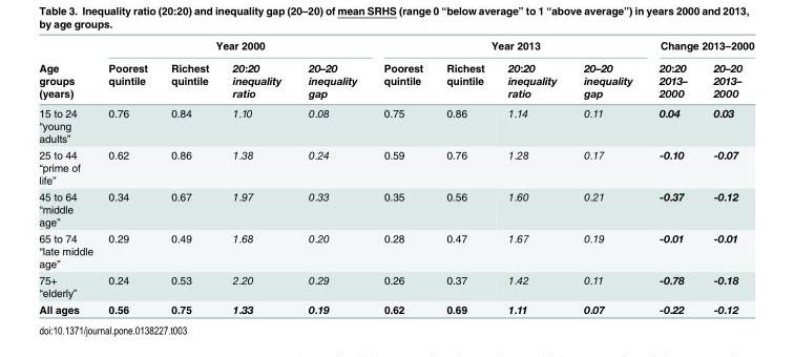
<table><thead><tr><td rowspan="2">Age groups (years)</td><td colspan="4">Year 2000</td><td colspan="4">Year 2013</td><td colspan="2">Change 2013–2000</td></tr><tr><td>Poorest quintile</td><td>Richest quintile</td><td>20:20 inequality ratio</td><td>20–20 inequality gap</td><td>Poorest quintile</td><td>Richest quintile</td><td>20:20 inequality ratio</td><td>20–20 inequality gap</td><td>20:20 2013– 2000</td><td>20–20 2013– 2000</td></tr></thead><tbody><tr><td>15 to 24 “young adults”</td><td>0.76</td><td>0.84</td><td>1.10</td><td>0.08</td><td>0.75</td><td>0.86</td><td>1.14</td><td>0.11</td><td>0.04</td><td>0.03</td></tr><tr><td>25 to 44 “prime of life”</td><td>0.62</td><td>0.86</td><td>1.38</td><td>0.24</td><td>0.59</td><td>0.76</td><td>1.28</td><td>0.17</td><td>-0.10</td><td>-0.07</td></tr><tr><td>45 to 64 “middle age”</td><td>0.34</td><td>0.67</td><td>1.97</td><td>0.33</td><td>0.35</td><td>0.56</td><td>1.60</td><td>0.21</td><td>-0.37</td><td>-0.12</td></tr><tr><td>65 to 74 “late middle age”</td><td>0.29</td><td>0.49</td><td>1.68</td><td>0.20</td><td>0.28</td><td>0.47</td><td>1.67</td><td>0.19</td><td>-0.01</td><td>-0.01</td></tr><tr><td>75+ “elderly”</td><td>0.24</td><td>0.53</td><td>2.20</td><td>0.29</td><td>0.26</td><td>0.37</td><td>1.42</td><td>0.11</td><td>-0.78</td><td>-0.18</td></tr><tr><td>All ages</td><td>0.56</td><td>0.75</td><td>1.33</td><td>0.19</td><td>0.62</td><td>0.69</td><td>1.11</td><td>0.07</td><td>-0.22</td><td>-0.12</td></tr></tbody></table>